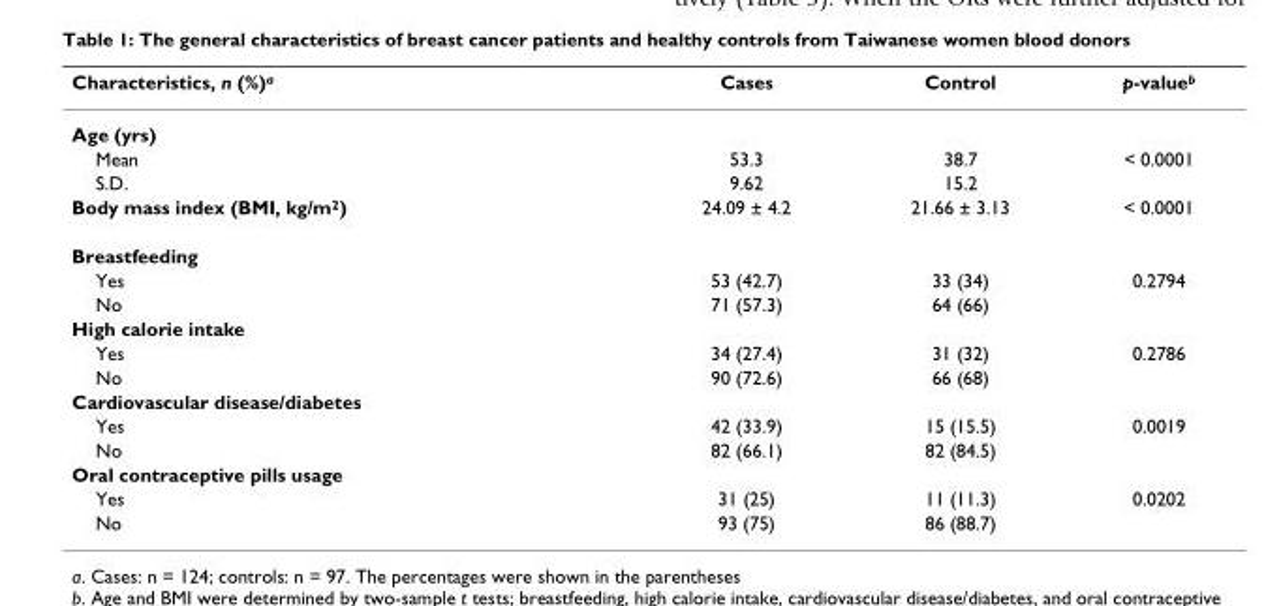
<table><thead><tr><td>Characteristics, n (%)<sup>a</sup></td><td>Cases</td><td>Control</td><td>p-value<sup>b</sup></td></tr></thead><tbody><tr><td colspan="4">Age (yrs)</td></tr><tr><td>Mean</td><td>53.3</td><td>38.7</td><td>&lt; 0.0001</td></tr><tr><td>S.D.</td><td>9.62</td><td>15.2</td><td></td></tr><tr><td>Body mass index (BMI, kg/m<sup>2</sup>)</td><td>24.09 ± 4.2</td><td>21.66 ± 3.13</td><td>&lt; 0.0001</td></tr><tr><td colspan="4">Breastfeeding</td></tr><tr><td>Yes</td><td>53 (42.7)</td><td>33 (34)</td><td>0.2794</td></tr><tr><td>No</td><td>71 (57.3)</td><td>64 (66)</td><td></td></tr><tr><td colspan="4">High calorie intake</td></tr><tr><td>Yes</td><td>34 (27.4)</td><td>31 (32)</td><td>0.2786</td></tr><tr><td>No</td><td>90 (72.6)</td><td>66 (68)</td><td></td></tr><tr><td colspan="4">Cardiovascular disease/diabetes</td></tr><tr><td>Yes</td><td>42 (33.9)</td><td>15 (15.5)</td><td>0.0019</td></tr><tr><td>No</td><td>82 (66.1)</td><td>82 (84.5)</td><td></td></tr><tr><td colspan="4">Oral contraceptive pills usage</td></tr><tr><td>Yes</td><td>31 (25)</td><td>11 (11.3)</td><td>0.0202</td></tr><tr><td>No</td><td>93 (75)</td><td>86 (88.7)</td><td></td></tr></tbody></table>